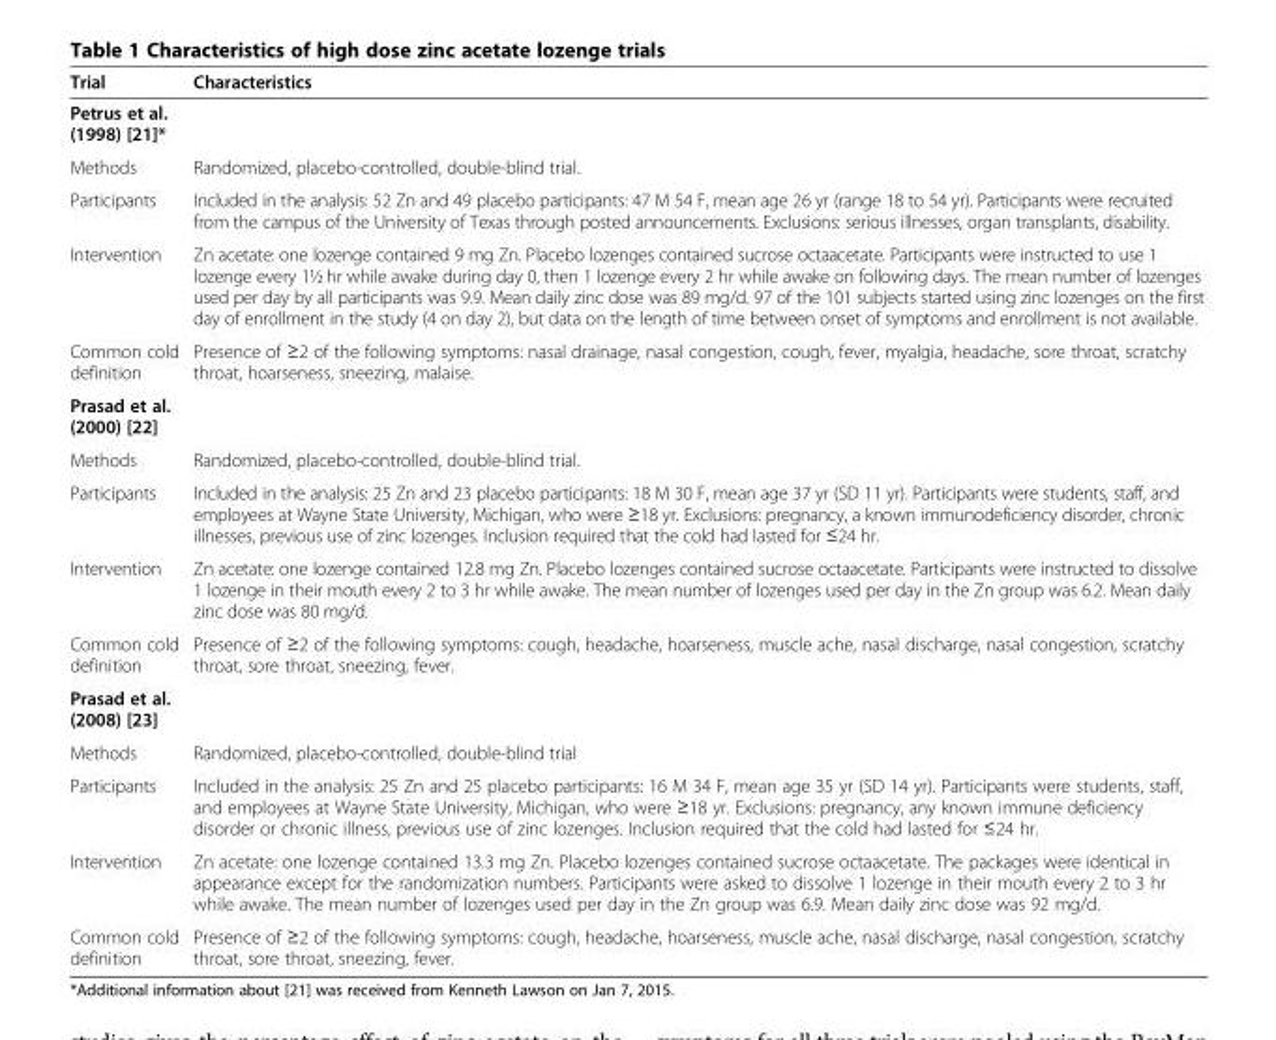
<table><thead><tr><td>Trial</td><td>Characteristics</td></tr></thead><tbody><tr><td colspan="2">Petrus et al. (1998) [21]*</td></tr><tr><td>Methods</td><td>Randomized, placebo-controlled, double-blind trial.</td></tr><tr><td>Participants</td><td>Included in the analysis: 52 Zn and 49 placebo participants: 47 M 54 F, mean age 26 yr (range 18 to 54 yr). Participants were recruited from the campus of the University of Texas through posted announcements. Exclusions: serious illnesses, organ transplants, disability.</td></tr><tr><td>Intervention</td><td>Zn acetate: one lozenge contained 9 mg Zn. Placebo lozenges contained sucrose octaacetate. Participants were instructed to use 1 lozenge every 1½ hr while awake during day 0, then 1 lozenge every 2 hr while awake on following days. The mean number of lozenges used per day by all participants was 9.9. Mean daily zinc dose was 89 mg/d. 97 of the 101 subjects started using zinc lozenges on the first day of enrollment in the study (4 on day 2), but data on the length of time between onset of symptoms and enrollment is not available.</td></tr><tr><td>Common cold definition</td><td>Presence of ≥2 of the following symptoms: nasal drainage, nasal congestion, cough, fever, myalgia, headache, sore throat, scratchy throat, hoarseness, sneezing, malaise.</td></tr><tr><td colspan="2">Prasad et al. (2000) [22]</td></tr><tr><td>Methods</td><td>Randomized, placebo-controlled, double-blind trial.</td></tr><tr><td>Participants</td><td>Included in the analysis: 25 Zn and 23 placebo participants: 18 M 30 F, mean age 37 yr (SD 11 yr). Participants were students, staff, and employees at Wayne State University, Michigan, who were ≥18 yr. Exclusions: pregnancy, a known immunodeficiency disorder, chronic illnesses, previous use of zinc lozenges. Inclusion required that the cold had lasted for ≤24 hr.</td></tr><tr><td>Intervention</td><td>Zn acetate: one lozenge contained 12.8 mg Zn. Placebo lozenges contained sucrose octaacetate. Participants were instructed to dissolve 1 lozenge in their mouth every 2 to 3 hr while awake. The mean number of lozenges used per day in the Zn group was 6.2. Mean daily zinc dose was 80 mg/d.</td></tr><tr><td>Common cold definition</td><td>Presence of ≥2 of the following symptoms: cough, headache, hoarseness, muscle ache, nasal discharge, nasal congestion, scratchy throat, sore throat, sneezing, fever.</td></tr><tr><td colspan="2">Prasad et al. (2008) [23]</td></tr><tr><td>Methods</td><td>Randomized, placebo-controlled, double-blind trial</td></tr><tr><td>Participants</td><td>Included in the analysis: 25 Zn and 25 placebo participants: 16 M 34 F, mean age 35 yr (SD 14 yr). Participants were students, staff, and employees at Wayne State University, Michigan, who were ≥18 yr. Exclusions: pregnancy, any known immune deficiency disorder or chronic illness, previous use of zinc lozenges. Inclusion required that the cold had lasted for ≤24 hr.</td></tr><tr><td>Intervention</td><td>Zn acetate: one lozenge contained 13.3 mg Zn. Placebo lozenges contained sucrose octaacetate. The packages were identical in appearance except for the randomization numbers. Participants were asked to dissolve 1 lozenge in their mouth every 2 to 3 hr while awake. The mean number of lozenges used per day in the Zn group was 6.9. Mean daily zinc dose was 92 mg/d.</td></tr><tr><td>Common cold definition</td><td>Presence of ≥2 of the following symptoms: cough, headache, hoarseness, muscle ache, nasal discharge, nasal congestion, scratchy throat, sore throat, sneezing, fever.</td></tr></tbody></table>